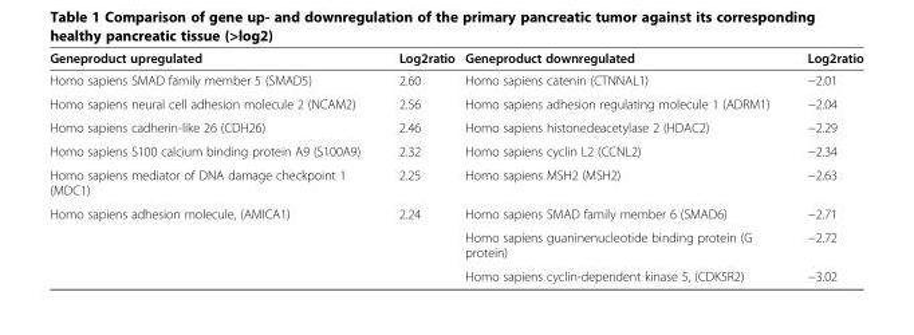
<table><thead><tr><td>Geneproduct upregulated</td><td>Log2ratio</td><td>Geneproduct downregulated</td><td>Log2ratio</td></tr></thead><tbody><tr><td>Homo sapiens SMAD family member 5 (SMAD5)</td><td>2.60</td><td>Homo sapiens catenin (CTNNAL1)</td><td>−2.01</td></tr><tr><td>Homo sapiens neural cell adhesion molecule 2 (NCAM2)</td><td>2.56</td><td>Homo sapiens adhesion regulating molecule 1 (ADRM1)</td><td>−2.04</td></tr><tr><td>Homo sapiens cadherin-like 26 (CDH26)</td><td>2.46</td><td>Homo sapiens histonedeacetylase 2 (HDAC2)</td><td>−2.29</td></tr><tr><td>Homo sapiens S100 calcium binding protein A9 (S100A9)</td><td>2.32</td><td>Homo sapiens cyclin L2 (CCNL2)</td><td>−2.34</td></tr><tr><td>Homo sapiens mediator of DNA damage checkpoint 1 (MDC1)</td><td>2.25</td><td>Homo sapiens MSH2 (MSH2)</td><td>−2.63</td></tr><tr><td rowspan="3">Homo sapiens adhesion molecule, (AMICA1)</td><td>2.24</td><td>Homo sapiens SMAD family member 6 (SMAD6)</td><td>−2.71</td></tr><tr><td></td><td>Homo sapiens guaninenucleotide binding protein (G protein)</td><td>−2.72</td></tr><tr><td></td><td>Homo sapiens cyclin-dependent kinase 5, (CDK5R2)</td><td>−3.02</td></tr></tbody></table>